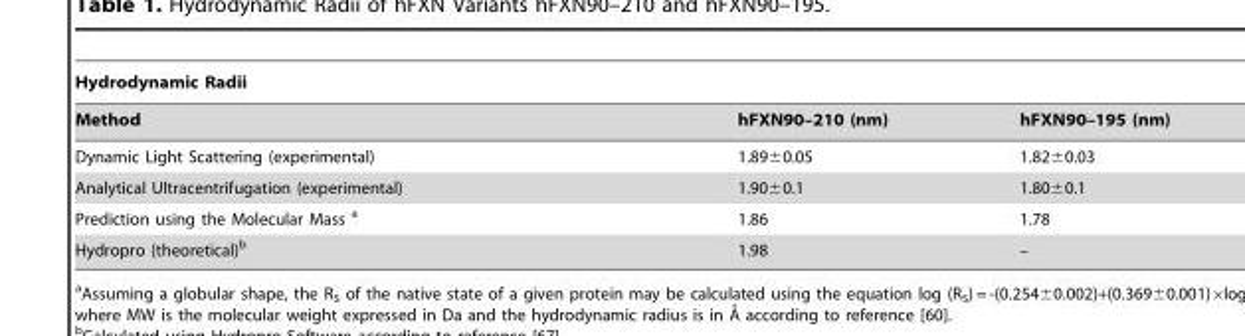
<table><thead><tr><td colspan="3">Hydrodynamic Radii</td></tr><tr><td>Method</td><td>hFXN90–210 (nm)</td><td>hFXN90–195 (nm)</td></tr></thead><tbody><tr><td>Dynamic Light Scattering (experimental)</td><td>1.89±0.05</td><td>1.82±0.03</td></tr><tr><td>Analytical Ultracentrifugation (experimental)</td><td>1.90±0.1</td><td>1.80±0.1</td></tr><tr><td>Prediction using the Molecular Mass a</td><td>1.86</td><td>1.78</td></tr><tr><td>Hydropro (theoretical)<sup>b</sup></td><td>1.98</td><td>–</td></tr></tbody></table>